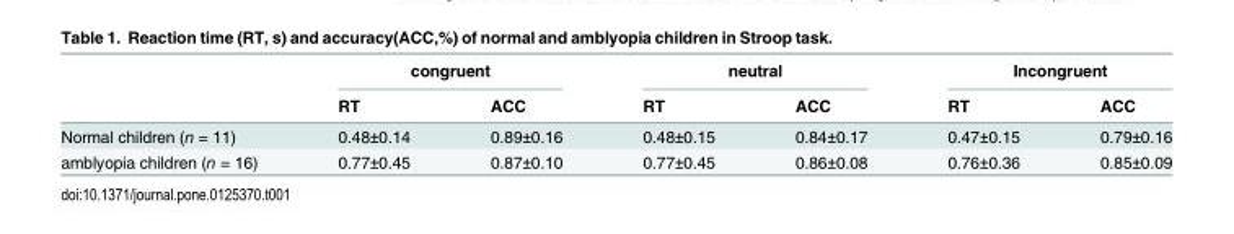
<table><thead><tr><td rowspan="2"></td><td colspan="2">congruent</td><td colspan="2">neutral</td><td colspan="2">Incongruent</td></tr><tr><td>RT</td><td>ACC</td><td>RT</td><td>ACC</td><td>RT</td><td>ACC</td></tr></thead><tbody><tr><td>Normal children (n = 11)</td><td>0.48±0.14</td><td>0.89±0.16</td><td>0.48±0.15</td><td>0.84±0.17</td><td>0.47±0.15</td><td>0.79±0.16</td></tr><tr><td>amblyopia children (n = 16)</td><td>0.77±0.45</td><td>0.87±0.10</td><td>0.77±0.45</td><td>0.86±0.08</td><td>0.76±0.36</td><td>0.85±0.09</td></tr></tbody></table>